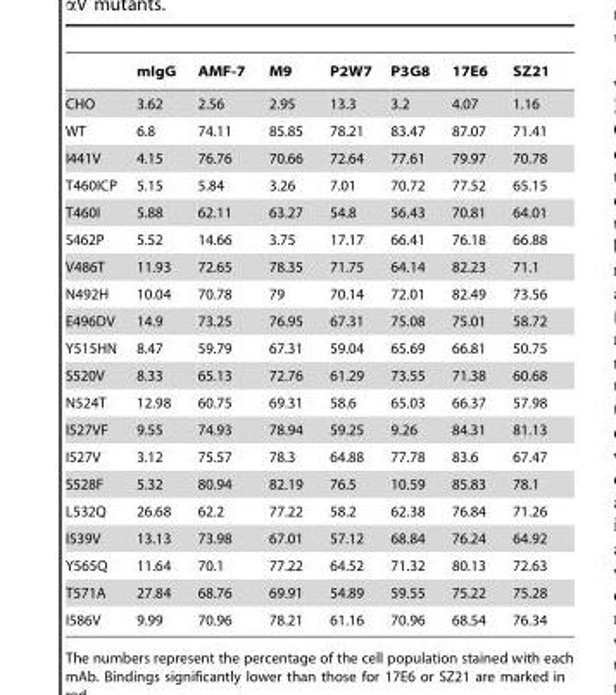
<table><thead><tr><td></td><td>mIgG</td><td>AMF-7</td><td>M9</td><td>P2W7</td><td>P3G8</td><td>17E6</td><td>SZ21</td></tr></thead><tbody><tr><td>CHO</td><td>3.62</td><td>2.56</td><td>2.95</td><td>13.3</td><td>3.2</td><td>4.07</td><td>1.16</td></tr><tr><td>WT</td><td>6.8</td><td>74.11</td><td>85.85</td><td>78.21</td><td>83.47</td><td>87.07</td><td>71.41</td></tr><tr><td>I441V</td><td>4.15</td><td>76.76</td><td>70.66</td><td>72.64</td><td>77.61</td><td>79.97</td><td>70.78</td></tr><tr><td>T460ICP</td><td>5.15</td><td>5.84</td><td>3.26</td><td>7.01</td><td>70.72</td><td>77.52</td><td>65.15</td></tr><tr><td>T460I</td><td>5.88</td><td>62.11</td><td>63.27</td><td>54.8</td><td>56.43</td><td>70.81</td><td>64.01</td></tr><tr><td>S462P</td><td>5.52</td><td>14.66</td><td>3.75</td><td>17.17</td><td>66.41</td><td>76.18</td><td>66.88</td></tr><tr><td>V486T</td><td>11.93</td><td>72.65</td><td>78.35</td><td>71.75</td><td>64.14</td><td>82.23</td><td>71.1</td></tr><tr><td>N492H</td><td>10.04</td><td>70.78</td><td>79</td><td>70.14</td><td>72.01</td><td>82.49</td><td>73.56</td></tr><tr><td>E496DV</td><td>14.9</td><td>73.25</td><td>76.95</td><td>67.31</td><td>75.08</td><td>75.01</td><td>58.72</td></tr><tr><td>Y515HN</td><td>8.47</td><td>59.79</td><td>67.31</td><td>59.04</td><td>65.69</td><td>66.81</td><td>50.75</td></tr><tr><td>S520V</td><td>8.33</td><td>65.13</td><td>72.76</td><td>61.29</td><td>73.55</td><td>71.38</td><td>60.68</td></tr><tr><td>N524T</td><td>12.98</td><td>60.75</td><td>69.31</td><td>58.6</td><td>65.03</td><td>66.37</td><td>57.98</td></tr><tr><td>I527VF</td><td>9.55</td><td>74.93</td><td>78.94</td><td>59.25</td><td>9.26</td><td>84.31</td><td>81.13</td></tr><tr><td>I527V</td><td>3.12</td><td>75.57</td><td>78.3</td><td>64.88</td><td>77.78</td><td>83.6</td><td>67.47</td></tr><tr><td>S528F</td><td>5.32</td><td>80.94</td><td>82.19</td><td>76.5</td><td>10.59</td><td>85.83</td><td>78.1</td></tr><tr><td>L532Q</td><td>26.68</td><td>62.2</td><td>77.22</td><td>58.2</td><td>62.38</td><td>76.84</td><td>71.26</td></tr><tr><td>I539V</td><td>13.13</td><td>73.98</td><td>67.01</td><td>57.12</td><td>68.84</td><td>76.24</td><td>64.92</td></tr><tr><td>Y565Q</td><td>11.64</td><td>70.1</td><td>77.22</td><td>64.52</td><td>71.32</td><td>80.13</td><td>72.63</td></tr><tr><td>T571A</td><td>27.84</td><td>68.76</td><td>69.91</td><td>54.89</td><td>59.55</td><td>75.22</td><td>75.28</td></tr><tr><td>I586V</td><td>9.99</td><td>70.96</td><td>78.21</td><td>61.16</td><td>70.96</td><td>68.54</td><td>76.34</td></tr></tbody></table>